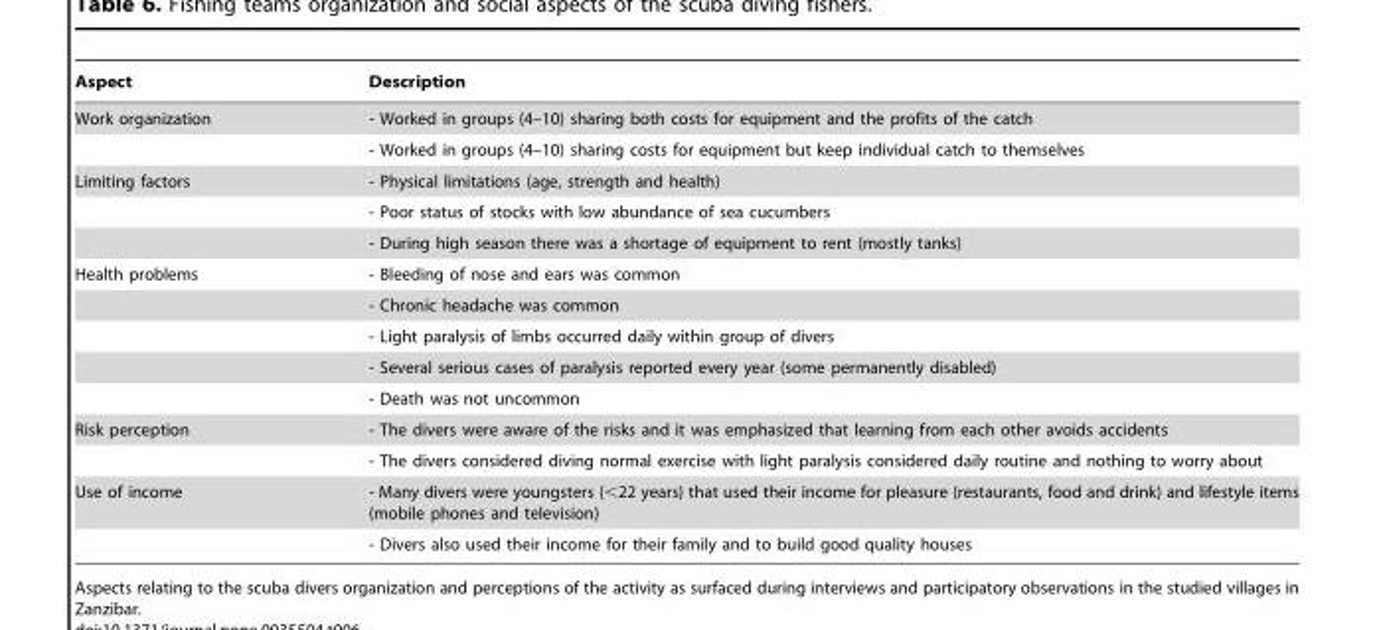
<table><thead><tr><td>Aspect</td><td>Description</td></tr></thead><tbody><tr><td rowspan="2">Work organization</td><td>- Worked in groups (4–10) sharing both costs for equipment and the profits of the catch</td></tr><tr><td>- Worked in groups (4–10) sharing costs for equipment but keep individual catch to themselves</td></tr><tr><td rowspan="3">Limiting factors</td><td>- Physical limitations (age, strength and health)</td></tr><tr><td>- Poor status of stocks with low abundance of sea cucumbers</td></tr><tr><td>- During high season there was a shortage of equipment to rent (mostly tanks)</td></tr><tr><td rowspan="5">Health problems</td><td>- Bleeding of nose and ears was common</td></tr><tr><td>- Chronic headache was common</td></tr><tr><td>- Light paralysis of limbs occurred daily within group of divers</td></tr><tr><td>- Several serious cases of paralysis reported every year (some permanently disabled)</td></tr><tr><td>- Death was not uncommon</td></tr><tr><td rowspan="2">Risk perception</td><td>- The divers were aware of the risks and it was emphasized that learning from each other avoids accidents</td></tr><tr><td>- The divers considered diving normal exercise with light paralysis considered daily routine and nothing to worry about</td></tr><tr><td rowspan="2">Use of income</td><td>- Many divers were youngsters (&lt;22 years) that used their income for pleasure (restaurants, food and drink) and lifestyle items (mobile phones and television)</td></tr><tr><td>- Divers also used their income for their family and to build good quality houses</td></tr></tbody></table>